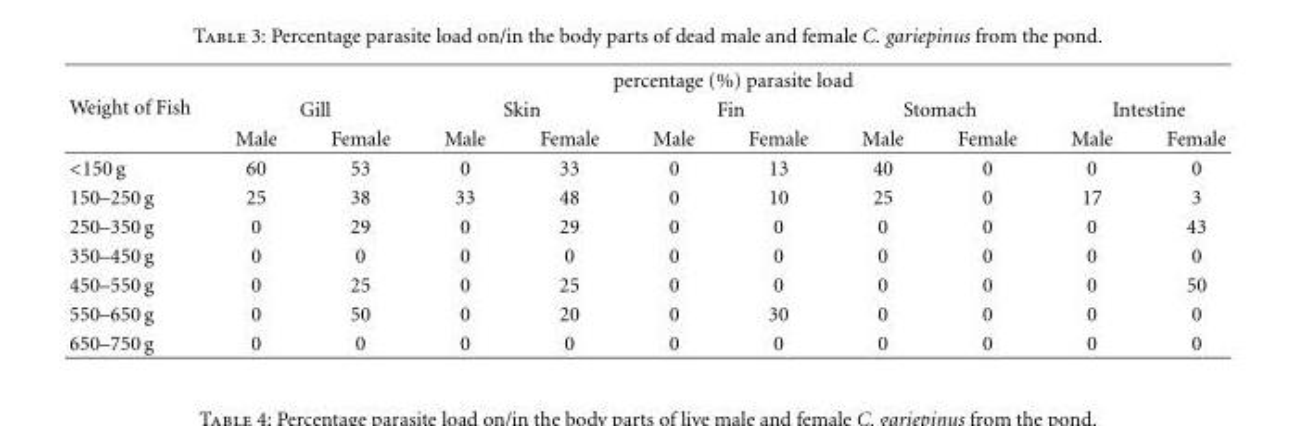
<table><thead><tr><td rowspan="3">Weight of Fish</td><td colspan="10">percentage (%) parasite load</td></tr><tr><td colspan="2">Gill</td><td colspan="2">Skin</td><td colspan="2">Fin</td><td colspan="2">Stomach</td><td colspan="2">Intestine</td></tr><tr><td>Male</td><td>Female</td><td>Male</td><td>Female</td><td>Male</td><td>Female</td><td>Male</td><td>Female</td><td>Male</td><td>Female</td></tr></thead><tbody><tr><td>&lt;150 g</td><td>60</td><td>53</td><td>0</td><td>33</td><td>0</td><td>13</td><td>40</td><td>0</td><td>0</td><td>0</td></tr><tr><td>150–250 g</td><td>25</td><td>38</td><td>33</td><td>48</td><td>0</td><td>10</td><td>25</td><td>0</td><td>17</td><td>3</td></tr><tr><td>250–350 g</td><td>0</td><td>29</td><td>0</td><td>29</td><td>0</td><td>0</td><td>0</td><td>0</td><td>0</td><td>43</td></tr><tr><td>350–450 g</td><td>0</td><td>0</td><td>0</td><td>0</td><td>0</td><td>0</td><td>0</td><td>0</td><td>0</td><td>0</td></tr><tr><td>450–550 g</td><td>0</td><td>25</td><td>0</td><td>25</td><td>0</td><td>0</td><td>0</td><td>0</td><td>0</td><td>50</td></tr><tr><td>550–650 g</td><td>0</td><td>50</td><td>0</td><td>20</td><td>0</td><td>30</td><td>0</td><td>0</td><td>0</td><td>0</td></tr><tr><td>650–750 g</td><td>0</td><td>0</td><td>0</td><td>0</td><td>0</td><td>0</td><td>0</td><td>0</td><td>0</td><td>0</td></tr></tbody></table>